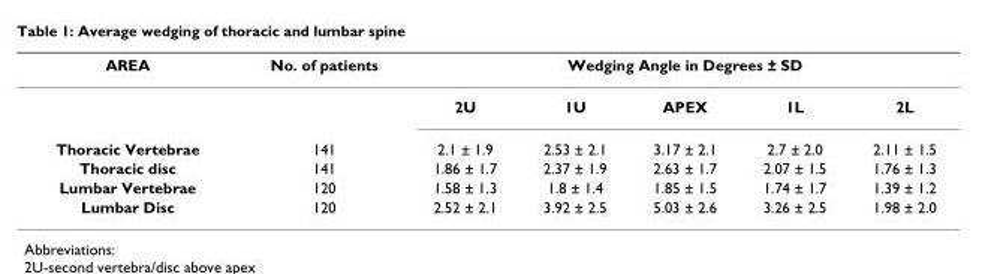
<table><thead><tr><td rowspan="2">AREA</td><td rowspan="2">No. of patients</td><td colspan="5">Wedging Angle in Degrees ± SD</td></tr><tr><td>2U</td><td>1U</td><td>APEX</td><td>1L</td><td>2L</td></tr></thead><tbody><tr><td>Thoracic Vertebrae</td><td>141</td><td>2.1 ± 1.9</td><td>2.53 ± 2.1</td><td>3.17 ± 2.1</td><td>2.7 ± 2.0</td><td>2.11 ± 1.5</td></tr><tr><td>Thoracic disc</td><td>141</td><td>1.86 ± 1.7</td><td>2.37 ± 1.9</td><td>2.63 ± 1.7</td><td>2.07 ± 1.5</td><td>1.76 ± 1.3</td></tr><tr><td>Lumbar Vertebrae</td><td>120</td><td>1.58 ± 1.3</td><td>1.8 ± 1.4</td><td>1.85 ± 1.5</td><td>1.74 ± 1.7</td><td>1.39 ± 1.2</td></tr><tr><td>Lumbar Disc</td><td>120</td><td>2.52 ± 2.1</td><td>3.92 ± 2.5</td><td>5.03 ± 2.6</td><td>3.26 ± 2.5</td><td>1.98 ± 2.0</td></tr></tbody></table>